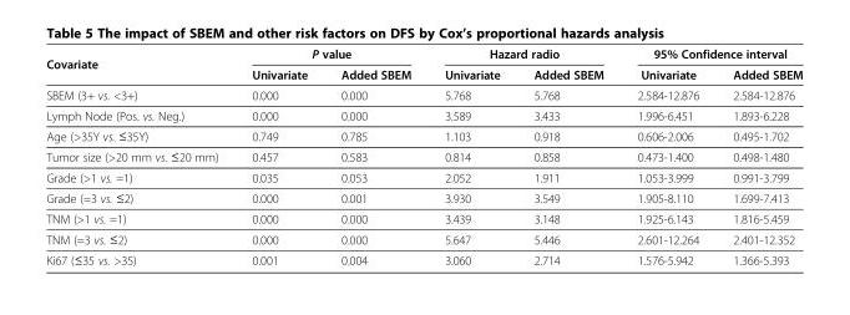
<table><thead><tr><td rowspan="2">Covariate</td><td colspan="2">P value</td><td colspan="2">Hazard radio</td><td colspan="2">95% Confidence interval</td></tr><tr><td>Univariate</td><td>Added SBEM</td><td>Univariate</td><td>Added SBEM</td><td>Univariate</td><td>Added SBEM</td></tr></thead><tbody><tr><td>SBEM (3+ vs. &lt;3+)</td><td>0.000</td><td>0.000</td><td>5.768</td><td>5.768</td><td>2.584-12.876</td><td>2.584-12.876</td></tr><tr><td>Lymph Node (Pos. vs. Neg.)</td><td>0.000</td><td>0.000</td><td>3.589</td><td>3.433</td><td>1.996-6.451</td><td>1.893-6.228</td></tr><tr><td>Age (&gt;35Y vs. ≤35Y)</td><td>0.749</td><td>0.785</td><td>1.103</td><td>0.918</td><td>0.606-2.006</td><td>0.495-1.702</td></tr><tr><td>Tumor size (&gt;20 mm vs. ≤20 mm)</td><td>0.457</td><td>0.583</td><td>0.814</td><td>0.858</td><td>0.473-1.400</td><td>0.498-1.480</td></tr><tr><td>Grade (&gt;1 vs. =1)</td><td>0.035</td><td>0.053</td><td>2.052</td><td>1.911</td><td>1.053-3.999</td><td>0.991-3.799</td></tr><tr><td>Grade (=3 vs. ≤2)</td><td>0.000</td><td>0.001</td><td>3.930</td><td>3.549</td><td>1.905-8.110</td><td>1.699-7.413</td></tr><tr><td>TNM (&gt;1 vs. =1)</td><td>0.000</td><td>0.000</td><td>3.439</td><td>3.148</td><td>1.925-6.143</td><td>1.816-5.459</td></tr><tr><td>TNM (=3 vs. ≤2)</td><td>0.000</td><td>0.000</td><td>5.647</td><td>5.446</td><td>2.601-12.264</td><td>2.401-12.352</td></tr><tr><td>Ki67 (≤35 vs. &gt;35)</td><td>0.001</td><td>0.004</td><td>3.060</td><td>2.714</td><td>1.576-5.942</td><td>1.366-5.393</td></tr></tbody></table>